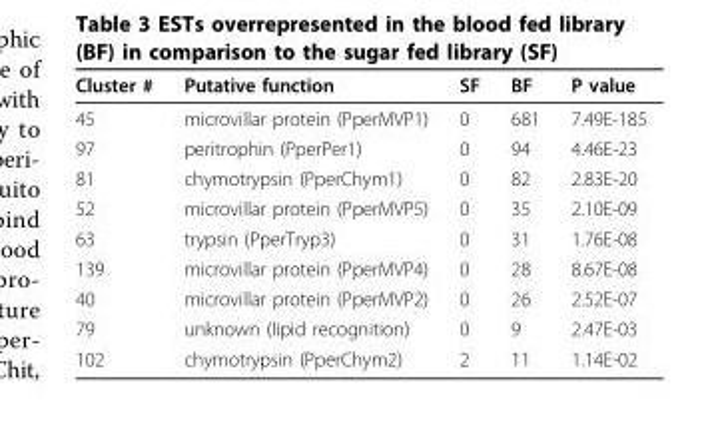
<table><thead><tr><td>Cluster #</td><td>Putative function</td><td>SF</td><td>BF</td><td>P value</td></tr></thead><tbody><tr><td>45</td><td>microvillar protein (PperMVP1)</td><td>0</td><td>681</td><td>7.49E-185</td></tr><tr><td>97</td><td>peritrophin (PperPer1)</td><td>0</td><td>94</td><td>4.46E-23</td></tr><tr><td>81</td><td>chymotrypsin (PperChym1)</td><td>0</td><td>82</td><td>2.83E-20</td></tr><tr><td>52</td><td>microvillar protein (PperMVP5)</td><td>0</td><td>35</td><td>2.10E-09</td></tr><tr><td>63</td><td>trypsin (PperTryp3)</td><td>0</td><td>31</td><td>1.76E-08</td></tr><tr><td>139</td><td>microvillar protein (PperMVP4)</td><td>0</td><td>28</td><td>8.67E-08</td></tr><tr><td>40</td><td>microvillar protein (PperMVP2)</td><td>0</td><td>26</td><td>2.52E-07</td></tr><tr><td>79</td><td>unknown (lipid recognition)</td><td>0</td><td>9</td><td>2.47E-03</td></tr><tr><td>102</td><td>chymotrypsin (PperChym2)</td><td>2</td><td>11</td><td>1.14E-02</td></tr></tbody></table>